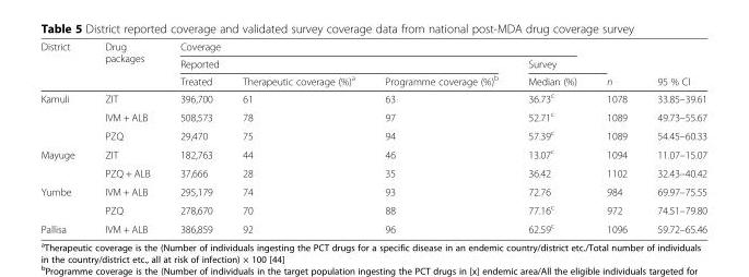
<table><thead><tr><td rowspan="3">District</td><td rowspan="3">Drug packages</td><td colspan="4">Coverage</td><td rowspan="3">n</td><td rowspan="3">95 % CI</td></tr><tr><td colspan="3">Reported</td><td rowspan="2">Survey Median (%)</td></tr><tr><td>Treated</td><td>Therapeutic coverage (%)<sup>a</sup></td><td>Programme coverage (%)<sup>b</sup></td></tr></thead><tbody><tr><td rowspan="3">Kamuli</td><td>ZIT</td><td>396,700</td><td>61</td><td>63</td><td>36.73<sup>c</sup></td><td>1078</td><td>33.85–39.61</td></tr><tr><td>IVM + ALB</td><td>508,573</td><td>78</td><td>97</td><td>52.71<sup>c</sup></td><td>1089</td><td>49.73–55.67</td></tr><tr><td>PZQ</td><td>29,470</td><td>75</td><td>94</td><td>57.39<sup>c</sup></td><td>1089</td><td>54.45–60.33</td></tr><tr><td rowspan="2">Mayuge</td><td>ZIT</td><td>182,763</td><td>44</td><td>46</td><td>13.07<sup>c</sup></td><td>1094</td><td>11.07–15.07</td></tr><tr><td>PZQ + ALB</td><td>37,666</td><td>28</td><td>35</td><td>36.42</td><td>1102</td><td>32.43–40.42</td></tr><tr><td rowspan="2">Yumbe</td><td>IVM + ALB</td><td>295,179</td><td>74</td><td>93</td><td>72.76</td><td>984</td><td>69.97–75.55</td></tr><tr><td>PZQ</td><td>278,670</td><td>70</td><td>88</td><td>77.16<sup>c</sup></td><td>972</td><td>74.51–79.80</td></tr><tr><td>Pallisa</td><td>IVM + ALB</td><td>386,859</td><td>92</td><td>96</td><td>62.59<sup>c</sup></td><td>1096</td><td>59.72–65.46</td></tr></tbody></table>